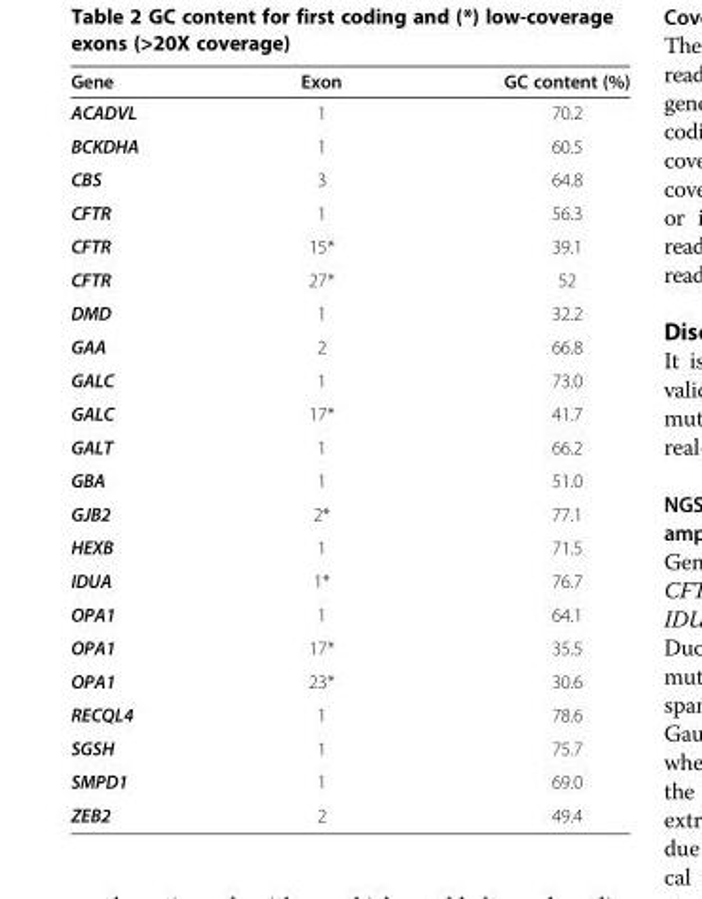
<table><thead><tr><td>Gene</td><td>Exon</td><td>GC content (%)</td></tr></thead><tbody><tr><td>ACADVL</td><td>1</td><td>70.2</td></tr><tr><td>BCKDHA</td><td>1</td><td>60.5</td></tr><tr><td>CBS</td><td>3</td><td>64.8</td></tr><tr><td>CFTR</td><td>1</td><td>56.3</td></tr><tr><td>CFTR</td><td>15*</td><td>39.1</td></tr><tr><td>CFTR</td><td>27*</td><td>52</td></tr><tr><td>DMD</td><td>1</td><td>32.2</td></tr><tr><td>GAA</td><td>2</td><td>66.8</td></tr><tr><td>GALC</td><td>1</td><td>73.0</td></tr><tr><td>GALC</td><td>17*</td><td>41.7</td></tr><tr><td>GALT</td><td>1</td><td>66.2</td></tr><tr><td>GBA</td><td>1</td><td>51.0</td></tr><tr><td>GJB2</td><td>2*</td><td>77.1</td></tr><tr><td>HEXB</td><td>1</td><td>71.5</td></tr><tr><td>IDUA</td><td>1*</td><td>76.7</td></tr><tr><td>OPA1</td><td>1</td><td>64.1</td></tr><tr><td>OPA1</td><td>17*</td><td>35.5</td></tr><tr><td>OPA1</td><td>23*</td><td>30.6</td></tr><tr><td>RECQL4</td><td>1</td><td>78.6</td></tr><tr><td>SGSH</td><td>1</td><td>75.7</td></tr><tr><td>SMPD1</td><td>1</td><td>69.0</td></tr><tr><td>ZEB2</td><td>2</td><td>49.4</td></tr></tbody></table>